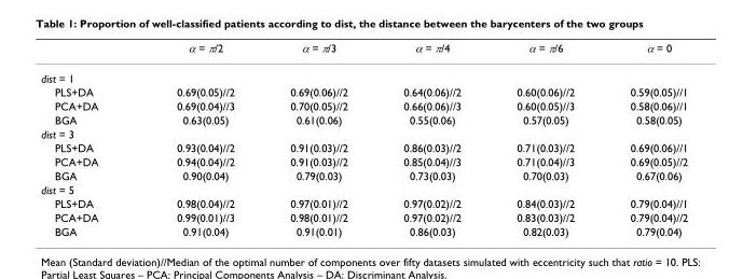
<table><thead><tr><td></td><td>α = π/2</td><td>α = π/3</td><td>α = π/4</td><td>α = π/6</td><td>α = 0</td></tr></thead><tbody><tr><td colspan="6">dist = 1</td></tr><tr><td>PLS+DA</td><td>0.69(0.05)//2</td><td>0.69(0.06)//2</td><td>0.64(0.06)//2</td><td>0.60(0.06)//2</td><td>0.59(0.05)//1</td></tr><tr><td>PCA+DA</td><td>0.69(0.04)//3</td><td>0.70(0.05)//2</td><td>0.66(0.06)//3</td><td>0.60(0.05)//3</td><td>0.58(0.06)//1</td></tr><tr><td>BGA</td><td>0.63(0.05)</td><td>0.61(0.06)</td><td>0.55(0.06)</td><td>0.57(0.05)</td><td>0.58(0.05)</td></tr><tr><td colspan="6">dist = 3</td></tr><tr><td>PLS+DA</td><td>0.93(0.04)//2</td><td>0.91(0.03)//2</td><td>0.86(0.03)//2</td><td>0.71(0.03)//2</td><td>0.69(0.06)//1</td></tr><tr><td>PCA+DA</td><td>0.94(0.04)//2</td><td>0.91(0.03)//2</td><td>0.85(0.04)//3</td><td>0.71(0.04)//3</td><td>0.69(0.05)//2</td></tr><tr><td>BGA</td><td>0.90(0.04)</td><td>0.79(0.03)</td><td>0.73(0.03)</td><td>0.70(0.03)</td><td>0.67(0.06)</td></tr><tr><td colspan="6">dist = 5</td></tr><tr><td>PLS+DA</td><td>0.98(0.04)//2</td><td>0.97(0.01)//2</td><td>0.97(0.02)//2</td><td>0.84(0.03)//2</td><td>0.79(0.04)//1</td></tr><tr><td>PCA+DA</td><td>0.99(0.01)//3</td><td>0.98(0.01)//2</td><td>0.97(0.02)//2</td><td>0.83(0.03)//2</td><td>0.79(0.04)//2</td></tr><tr><td>BGA</td><td>0.91(0.04)</td><td>0.91(0.01)</td><td>0.86(0.03)</td><td>0.82(0.03)</td><td>0.79(0.04)</td></tr></tbody></table>